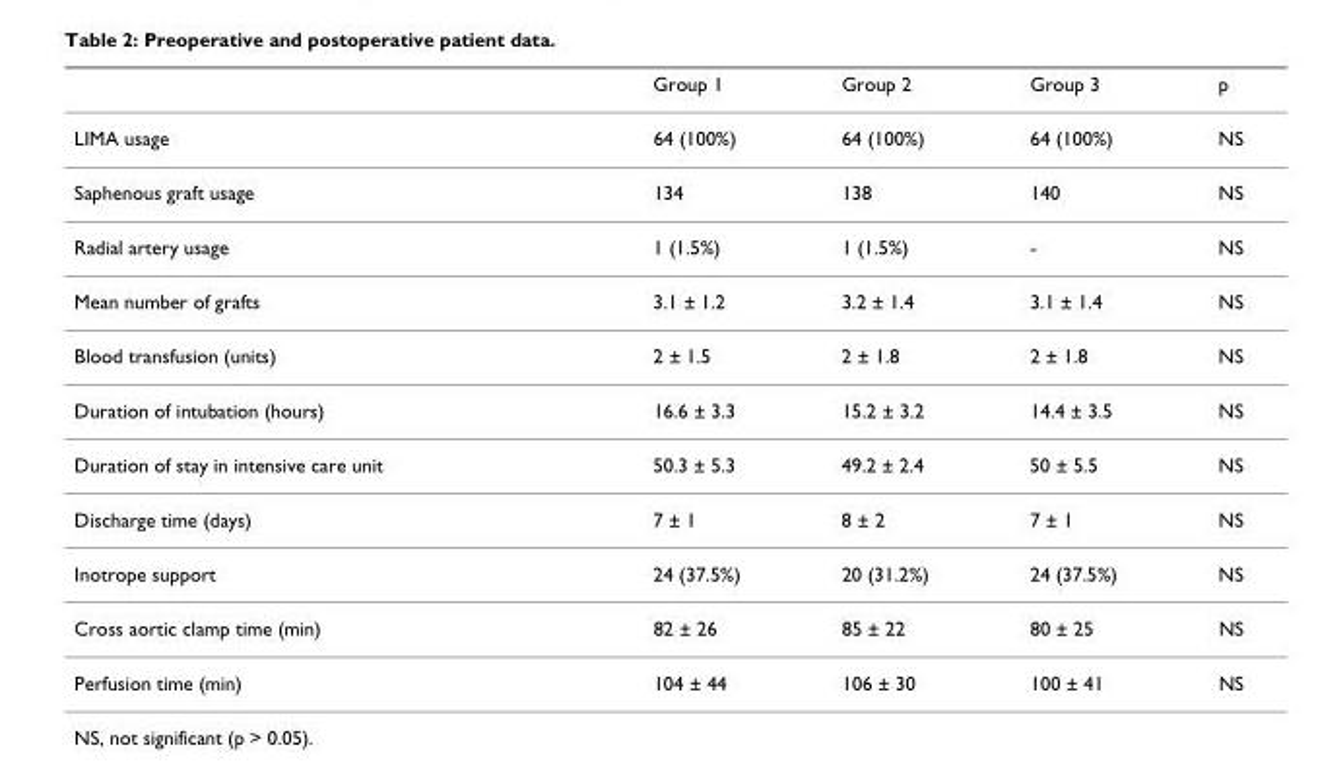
<table><thead><tr><td></td><td>Group 1</td><td>Group 2</td><td>Group 3</td><td>p</td></tr></thead><tbody><tr><td>LIMA usage</td><td>64 (100%)</td><td>64 (100%)</td><td>64 (100%)</td><td>NS</td></tr><tr><td>Saphenous graft usage</td><td>134</td><td>138</td><td>140</td><td>NS</td></tr><tr><td>Radial artery usage</td><td>1 (1.5%)</td><td>1 (1.5%)</td><td>-</td><td>NS</td></tr><tr><td>Mean number of grafts</td><td>3.1 ± 1.2</td><td>3.2 ± 1.4</td><td>3.1 ± 1.4</td><td>NS</td></tr><tr><td>Blood transfusion (units)</td><td>2 ± 1.5</td><td>2 ± 1.8</td><td>2 ± 1.8</td><td>NS</td></tr><tr><td>Duration of intubation (hours)</td><td>16.6 ± 3.3</td><td>15.2 ± 3.2</td><td>14.4 ± 3.5</td><td>NS</td></tr><tr><td>Duration of stay in intensive care unit</td><td>50.3 ± 5.3</td><td>49.2 ± 2.4</td><td>50 ± 5.5</td><td>NS</td></tr><tr><td>Discharge time (days)</td><td>7 ± 1</td><td>8 ± 2</td><td>7 ± 1</td><td>NS</td></tr><tr><td>Inotrope support</td><td>24 (37.5%)</td><td>20 (31.2%)</td><td>24 (37.5%)</td><td>NS</td></tr><tr><td>Cross aortic clamp time (min)</td><td>82 ± 26</td><td>85 ± 22</td><td>80 ± 25</td><td>NS</td></tr><tr><td>Perfusion time (min)</td><td>104 ± 44</td><td>106 ± 30</td><td>100 ± 41</td><td>NS</td></tr></tbody></table>